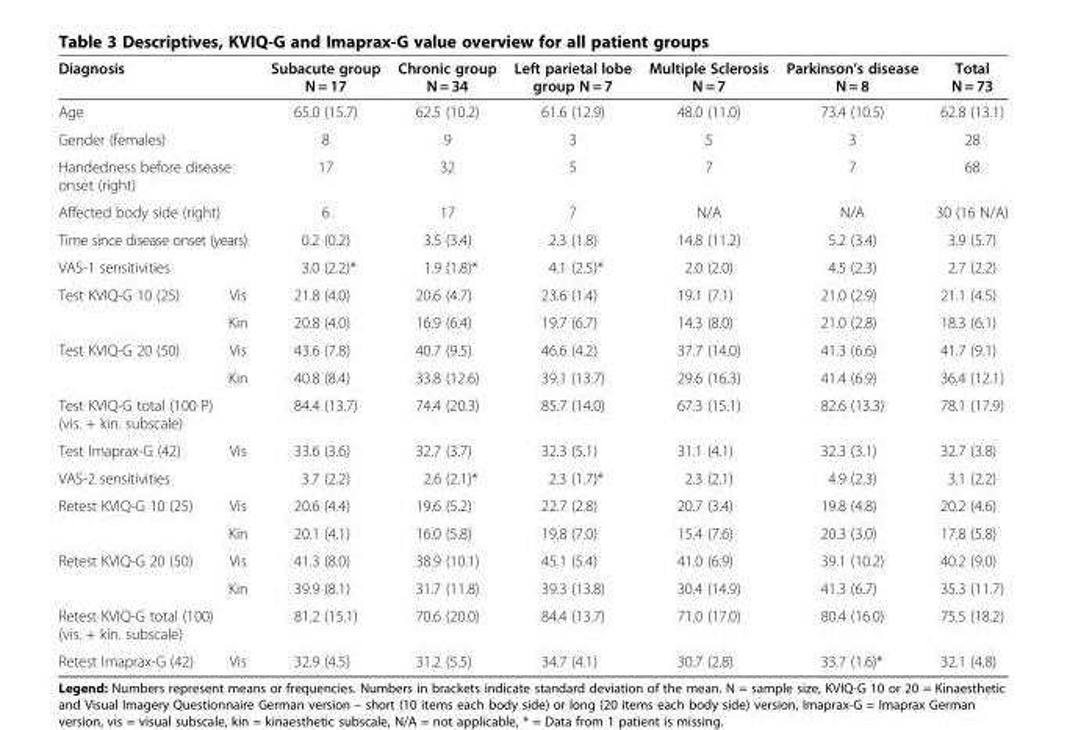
<table><thead><tr><td colspan="2">Diagnosis</td><td>Subacute group N = 17</td><td>Chronic group N = 34</td><td>Left parietal lobe group N = 7</td><td>Multiple Sclerosis N = 7</td><td>Parkinson’s disease N = 8</td><td>Total N = 73</td></tr></thead><tbody><tr><td colspan="2">Age</td><td>65.0 (15.7)</td><td>62.5 (10.2)</td><td>61.6 (12.9)</td><td>48.0 (11.0)</td><td>73.4 (10.5)</td><td>62.8 (13.1)</td></tr><tr><td colspan="2">Gender (females)</td><td>8</td><td>9</td><td>3</td><td>5</td><td>3</td><td>28</td></tr><tr><td colspan="2">Handedness before disease onset (right)</td><td>17</td><td>32</td><td>5</td><td>7</td><td>7</td><td>68</td></tr><tr><td colspan="2">Affected body side (right)</td><td>6</td><td>17</td><td>7</td><td>N/A</td><td>N/A</td><td>30 (16 N/A)</td></tr><tr><td colspan="2">Time since disease onset (years)</td><td>0.2 (0.2)</td><td>3.5 (3.4)</td><td>2.3 (1.8)</td><td>14.8 (11.2)</td><td>5.2 (3.4)</td><td>3.9 (5.7)</td></tr><tr><td colspan="2">VAS-1 sensitivities</td><td>3.0 (2.2)*</td><td>1.9 (1.8)*</td><td>4.1 (2.5)*</td><td>2.0 (2.0)</td><td>4.5 (2.3)</td><td>2.7 (2.2)</td></tr><tr><td rowspan="2">Test KVIQ-G 10 (25)</td><td>Vis</td><td>21.8 (4.0)</td><td>20.6 (4.7)</td><td>23.6 (1.4)</td><td>19.1 (7.1)</td><td>21.0 (2.9)</td><td>21.1 (4.5)</td></tr><tr><td>Kin</td><td>20.8 (4.0)</td><td>16.9 (6.4)</td><td>19.7 (6.7)</td><td>14.3 (8.0)</td><td>21.0 (2.8)</td><td>18.3 (6.1)</td></tr><tr><td rowspan="2">Test KVIQ-G 20 (50)</td><td>Vis</td><td>43.6 (7.8)</td><td>40.7 (9.5)</td><td>46.6 (4.2)</td><td>37.7 (14.0)</td><td>41.3 (6.6)</td><td>41.7 (9.1)</td></tr><tr><td>Kin</td><td>40.8 (8.4)</td><td>33.8 (12.6)</td><td>39.1 (13.7)</td><td>29.6 (16.3)</td><td>41.4 (6.9)</td><td>36.4 (12.1)</td></tr><tr><td colspan="2">Test KVIQ-G total (100 P) (vis. + kin. subscale)</td><td>84.4 (13.7)</td><td>74.4 (20.3)</td><td>85.7 (14.0)</td><td>67.3 (15.1)</td><td>82.6 (13.3)</td><td>78.1 (17.9)</td></tr><tr><td>Test Imaprax-G (42)</td><td>Vis</td><td>33.6 (3.6)</td><td>32.7 (3.7)</td><td>32.3 (5.1)</td><td>31.1 (4.1)</td><td>32.3 (3.1)</td><td>32.7 (3.8)</td></tr><tr><td colspan="2">VAS-2 sensitivities</td><td>3.7 (2.2)</td><td>2.6 (2.1)*</td><td>2.3 (1.7)*</td><td>2.3 (2.1)</td><td>4.9 (2.3)</td><td>3.1 (2.2)</td></tr><tr><td rowspan="2">Retest KVIQ-G 10 (25)</td><td>Vis</td><td>20.6 (4.4)</td><td>19.6 (5.2)</td><td>22.7 (2.8)</td><td>20.7 (3.4)</td><td>19.8 (4.8)</td><td>20.2 (4.6)</td></tr><tr><td>Kin</td><td>20.1 (4.1)</td><td>16.0 (5.8)</td><td>19.8 (7.0)</td><td>15.4 (7.6)</td><td>20.3 (3.0)</td><td>17.8 (5.8)</td></tr><tr><td rowspan="2">Retest KVIQ-G 20 (50)</td><td>Vis</td><td>41.3 (8.0)</td><td>38.9 (10.1)</td><td>45.1 (5.4)</td><td>41.0 (6.9)</td><td>39.1 (10.2)</td><td>40.2 (9.0)</td></tr><tr><td>Kin</td><td>39.9 (8.1)</td><td>31.7 (11.8)</td><td>39.3 (13.8)</td><td>30.4 (14.9)</td><td>41.3 (6.7)</td><td>35.3 (11.7)</td></tr><tr><td colspan="2">Retest KVIQ-G total (100) (vis. + kin. subscale)</td><td>81.2 (15.1)</td><td>70.6 (20.0)</td><td>84.4 (13.7)</td><td>71.0 (17.0)</td><td>80.4 (16.0)</td><td>75.5 (18.2)</td></tr><tr><td>Retest Imaprax-G (42)</td><td>Vis</td><td>32.9 (4.5)</td><td>31.2 (5.5)</td><td>34.7 (4.1)</td><td>30.7 (2.8)</td><td>33.7 (1.6)*</td><td>32.1 (4.8)</td></tr></tbody></table>